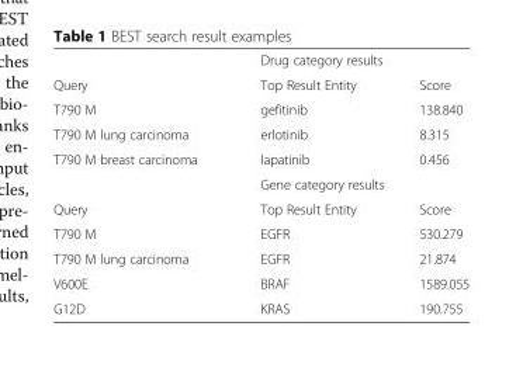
<table><thead><tr><td rowspan="2">Query</td><td colspan="2">Drug category results</td></tr><tr><td>Top Result Entity</td><td>Score</td></tr></thead><tbody><tr><td>T790 M</td><td>gefitinib</td><td>138.840</td></tr><tr><td>T790 M lung carcinoma</td><td>erlotinib</td><td>8.315</td></tr><tr><td rowspan="2">T790 M breast carcinoma</td><td>lapatinib</td><td>0.456</td></tr><tr><td colspan="2">Gene category results</td></tr><tr><td>Query</td><td>Top Result Entity</td><td>Score</td></tr><tr><td>T790 M</td><td>EGFR</td><td>530.279</td></tr><tr><td>T790 M lung carcinoma</td><td>EGFR</td><td>21.874</td></tr><tr><td>V600E</td><td>BRAF</td><td>1589.055</td></tr><tr><td>G12D</td><td>KRAS</td><td>190.755</td></tr></tbody></table>